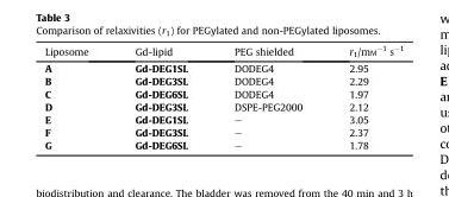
<table><thead><tr><td>Liposome</td><td>Gd-lipid</td><td>PEG shielded</td><td>r<sub>1</sub>/mM<sup>−1</sup> s<sup>−1</sup></td></tr></thead><tbody><tr><td>A</td><td>Gd-DEG1SL</td><td>DODEG4</td><td>2.95</td></tr><tr><td>B</td><td>Gd-DEG3SL</td><td>DODEG4</td><td>2.29</td></tr><tr><td>C</td><td>Gd-DEG6SL</td><td>DODEG4</td><td>1.97</td></tr><tr><td>D</td><td>Gd-DEG3SL</td><td>DSPE-PEG2000</td><td>2.12</td></tr><tr><td>E</td><td>Gd-DEG1SL</td><td>–</td><td>3.05</td></tr><tr><td>F</td><td>Gd-DEG3SL</td><td>–</td><td>2.37</td></tr><tr><td>G</td><td>Gd-DEG6SL</td><td>–</td><td>1.78</td></tr></tbody></table>